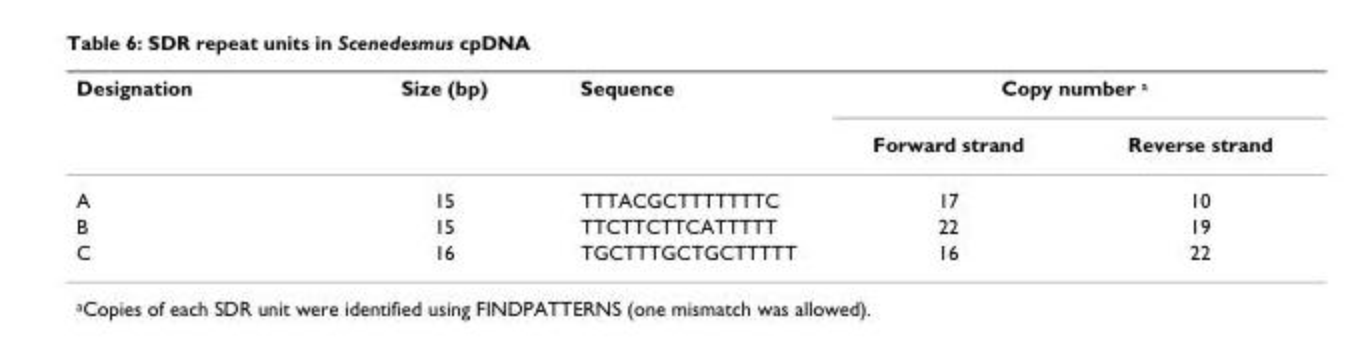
<table><thead><tr><td rowspan="2">Designation</td><td rowspan="2">Size (bp)</td><td rowspan="2">Sequence</td><td colspan="2">Copy number <sup>a</sup></td></tr><tr><td>Forward strand</td><td>Reverse strand</td></tr></thead><tbody><tr><td>A</td><td>15</td><td>TTTACGCTTTTTTTC</td><td>17</td><td>10</td></tr><tr><td>B</td><td>15</td><td>TTCTTCTTCATTTTT</td><td>22</td><td>19</td></tr><tr><td>C</td><td>16</td><td>TGCTTTGCTGCTTTTT</td><td>16</td><td>22</td></tr></tbody></table>